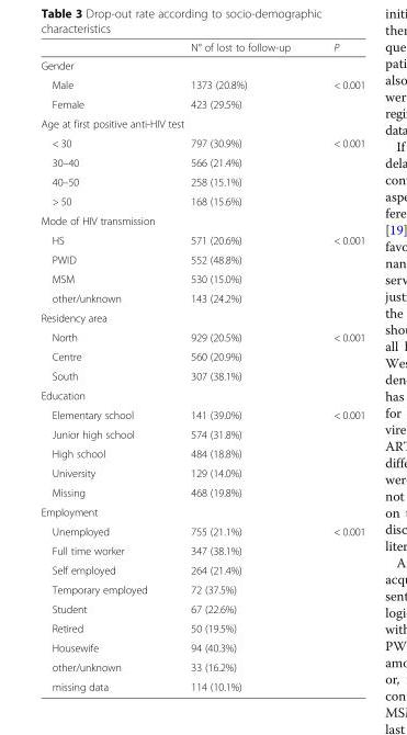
<table><thead><tr><td></td><td>N° of lost to follow-up</td><td>P</td></tr></thead><tbody><tr><td colspan="3">Gender</td></tr><tr><td>Male</td><td>1373 (20.8%)</td><td rowspan="2">&lt; 0.001</td></tr><tr><td>Female</td><td>423 (29.5%)</td></tr><tr><td colspan="3">Age at first positive anti-HIV test</td></tr><tr><td>&lt; 30</td><td>797 (30.9%)</td><td rowspan="4">&lt; 0.001</td></tr><tr><td>30–40</td><td>566 (21.4%)</td></tr><tr><td>40–50</td><td>258 (15.1%)</td></tr><tr><td>&gt; 50</td><td>168 (15.6%)</td></tr><tr><td colspan="3">Mode of HIV transmission</td></tr><tr><td>HS</td><td>571 (20.6%)</td><td rowspan="4">&lt; 0.001</td></tr><tr><td>PWID</td><td>552 (48.8%)</td></tr><tr><td>MSM</td><td>530 (15.0%)</td></tr><tr><td>other/unknown</td><td>143 (24.2%)</td></tr><tr><td colspan="3">Residency area</td></tr><tr><td>North</td><td>929 (20.5%)</td><td rowspan="3">&lt; 0.001</td></tr><tr><td>Centre</td><td>560 (20.9%)</td></tr><tr><td>South</td><td>307 (38.1%)</td></tr><tr><td colspan="3">Education</td></tr><tr><td>Elementary school</td><td>141 (39.0%)</td><td rowspan="5">&lt; 0.001</td></tr><tr><td>Junior high school</td><td>574 (31.8%)</td></tr><tr><td>High school</td><td>484 (18.8%)</td></tr><tr><td>University</td><td>129 (14.0%)</td></tr><tr><td>Missing</td><td>468 (19.8%)</td></tr><tr><td colspan="3">Employment</td></tr><tr><td>Unemployed</td><td>755 (21.1%)</td><td rowspan="9">&lt; 0.001</td></tr><tr><td>Full time worker</td><td>347 (38.1%)</td></tr><tr><td>Self employed</td><td>264 (21.4%)</td></tr><tr><td>Temporary employed</td><td>72 (37.5%)</td></tr><tr><td>Student</td><td>67 (22.6%)</td></tr><tr><td>Retired</td><td>50 (19.5%)</td></tr><tr><td>Housewife</td><td>94 (40.3%)</td></tr><tr><td>other/unknown</td><td>33 (16.2%)</td></tr><tr><td>missing data</td><td>114 (10.1%)</td></tr></tbody></table>